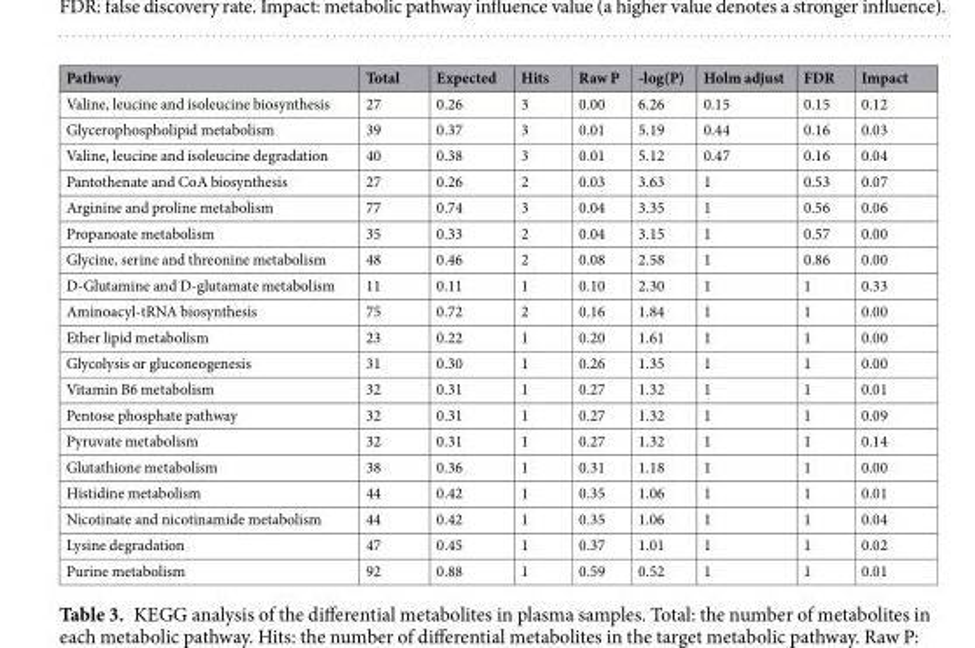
<table><thead><tr><td>Pathway</td><td>Total</td><td>Expected</td><td>Hits</td><td>Raw P</td><td>-log(P)</td><td>Holm adjust</td><td>FDR</td><td>Impact</td></tr></thead><tbody><tr><td>Valine, leucine and isoleucine biosynthesis</td><td>27</td><td>0.26</td><td>3</td><td>0.00</td><td>6.26</td><td>0.15</td><td>0.15</td><td>0.12</td></tr><tr><td>Glycerophospholipid metabolism</td><td>39</td><td>0.37</td><td>3</td><td>0.01</td><td>5.19</td><td>0.44</td><td>0.16</td><td>0.03</td></tr><tr><td>Valine, leucine and isoleucine degradation</td><td>40</td><td>0.38</td><td>3</td><td>0.01</td><td>5.12</td><td>0.47</td><td>0.16</td><td>0.04</td></tr><tr><td>Pantothenate and CoA biosynthesis</td><td>27</td><td>0.26</td><td>2</td><td>0.03</td><td>3.63</td><td>1</td><td>0.53</td><td>0.07</td></tr><tr><td>Arginine and proline metabolism</td><td>77</td><td>0.74</td><td>3</td><td>0.04</td><td>3.35</td><td>1</td><td>0.56</td><td>0.06</td></tr><tr><td>Propanoate metabolism</td><td>35</td><td>0.33</td><td>2</td><td>0.04</td><td>3.15</td><td>1</td><td>0.57</td><td>0.00</td></tr><tr><td>Glycine, serine and threonine metabolism</td><td>48</td><td>0.46</td><td>2</td><td>0.08</td><td>2.58</td><td>1</td><td>0.86</td><td>0.00</td></tr><tr><td>D-Glutamine and D-glutamate metabolism</td><td>11</td><td>0.11</td><td>1</td><td>0.10</td><td>2.30</td><td>1</td><td>1</td><td>0.33</td></tr><tr><td>Aminoacyl-tRNA biosynthesis</td><td>75</td><td>0.72</td><td>2</td><td>0.16</td><td>1.84</td><td>1</td><td>1</td><td>0.00</td></tr><tr><td>Ether lipid metabolism</td><td>23</td><td>0.22</td><td>1</td><td>0.20</td><td>1.61</td><td>1</td><td>1</td><td>0.00</td></tr><tr><td>Glycolysis or gluconeogenesis</td><td>31</td><td>0.30</td><td>1</td><td>0.26</td><td>1.35</td><td>1</td><td>1</td><td>0.00</td></tr><tr><td>Vitamin B6 metabolism</td><td>32</td><td>0.31</td><td>1</td><td>0.27</td><td>1.32</td><td>1</td><td>1</td><td>0.01</td></tr><tr><td>Pentose phosphate pathway</td><td>32</td><td>0.31</td><td>1</td><td>0.27</td><td>1.32</td><td>1</td><td>1</td><td>0.09</td></tr><tr><td>Pyruvate metabolism</td><td>32</td><td>0.31</td><td>1</td><td>0.27</td><td>1.32</td><td>1</td><td>1</td><td>0.14</td></tr><tr><td>Glutathione metabolism</td><td>38</td><td>0.36</td><td>1</td><td>0.31</td><td>1.18</td><td>1</td><td>1</td><td>0.00</td></tr><tr><td>Histidine metabolism</td><td>44</td><td>0.42</td><td>1</td><td>0.35</td><td>1.06</td><td>1</td><td>1</td><td>0.01</td></tr><tr><td>Nicotinate and nicotinamide metabolism</td><td>44</td><td>0.42</td><td>1</td><td>0.35</td><td>1.06</td><td>1</td><td>1</td><td>0.04</td></tr><tr><td>Lysine degradation</td><td>47</td><td>0.45</td><td>1</td><td>0.37</td><td>1.01</td><td>1</td><td>1</td><td>0.02</td></tr><tr><td>Purine metabolism</td><td>92</td><td>0.88</td><td>1</td><td>0.59</td><td>0.52</td><td>1</td><td>1</td><td>0.01</td></tr></tbody></table>